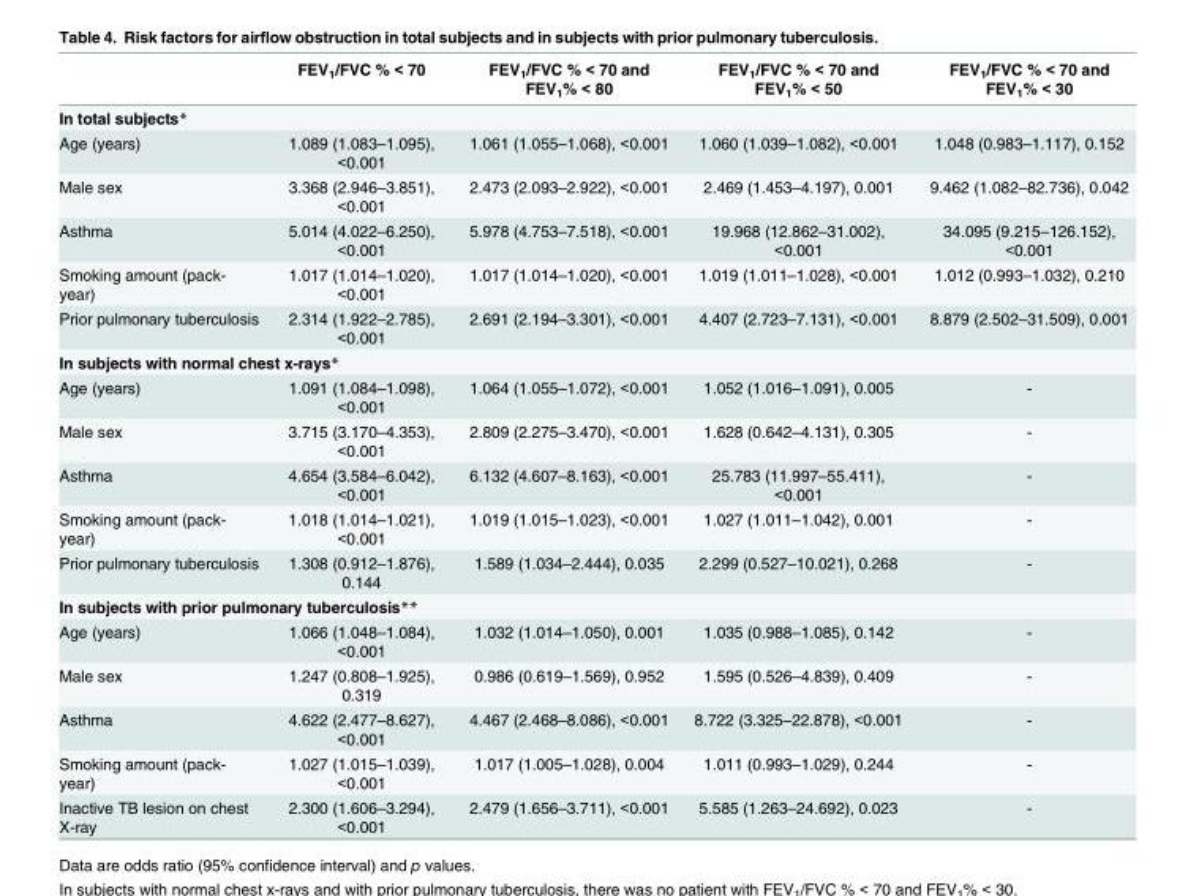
<table><thead><tr><td></td><td>FEV<sub>1</sub>/FVC % &lt; 70</td><td>FEV<sub>1</sub>/FVC % &lt; 70 and FEV<sub>1</sub>% &lt; 80</td><td>FEV<sub>1</sub>/FVC % &lt; 70 and FEV<sub>1</sub>% &lt; 50</td><td>FEV<sub>1</sub>/FVC % &lt; 70 and FEV<sub>1</sub>% &lt; 30</td></tr></thead><tbody><tr><td colspan="5">In total subjects*</td></tr><tr><td>Age (years)</td><td>1.089 (1.083–1.095), &lt;0.001</td><td>1.061 (1.055–1.068), &lt;0.001</td><td>1.060 (1.039–1.082), &lt;0.001</td><td>1.048 (0.983–1.117), 0.152</td></tr><tr><td>Male sex</td><td>3.368 (2.946–3.851), &lt;0.001</td><td>2.473 (2.093–2.922), &lt;0.001</td><td>2.469 (1.453–4.197), 0.001</td><td>9.462 (1.082–82.736), 0.042</td></tr><tr><td>Asthma</td><td>5.014 (4.022–6.250), &lt;0.001</td><td>5.978 (4.753–7.518), &lt;0.001</td><td>19.968 (12.862–31.002), &lt;0.001</td><td>34.095 (9.215–126.152), &lt;0.001</td></tr><tr><td>Smoking amount (pack- year)</td><td>1.017 (1.014–1.020), &lt;0.001</td><td>1.017 (1.014–1.020), &lt;0.001</td><td>1.019 (1.011–1.028), &lt;0.001</td><td>1.012 (0.993–1.032), 0.210</td></tr><tr><td>Prior pulmonary tuberculosis</td><td>2.314 (1.922–2.785), &lt;0.001</td><td>2.691 (2.194–3.301), &lt;0.001</td><td>4.407 (2.723–7.131), &lt;0.001</td><td>8.879 (2.502–31.509), 0.001</td></tr><tr><td colspan="5">In subjects with normal chest x-rays*</td></tr><tr><td>Age (years)</td><td>1.091 (1.084–1.098), &lt;0.001</td><td>1.064 (1.055–1.072), &lt;0.001</td><td>1.052 (1.016–1.091), 0.005</td><td>-</td></tr><tr><td>Male sex</td><td>3.715 (3.170–4.353), &lt;0.001</td><td>2.809 (2.275–3.470), &lt;0.001</td><td>1.628 (0.642–4.131), 0.305</td><td>-</td></tr><tr><td>Asthma</td><td>4.654 (3.584–6.042), &lt;0.001</td><td>6.132 (4.607–8.163), &lt;0.001</td><td>25.783 (11.997–55.411), &lt;0.001</td><td>-</td></tr><tr><td>Smoking amount (pack- year)</td><td>1.018 (1.014–1.021), &lt;0.001</td><td>1.019 (1.015–1.023), &lt;0.001</td><td>1.027 (1.011–1.042), 0.001</td><td>-</td></tr><tr><td>Prior pulmonary tuberculosis</td><td>1.308 (0.912–1.876), 0.144</td><td>1.589 (1.034–2.444), 0.035</td><td>2.299 (0.527–10.021), 0.268</td><td>-</td></tr><tr><td colspan="5">In subjects with prior pulmonary tuberculosis**</td></tr><tr><td>Age (years)</td><td>1.066 (1.048–1.084), &lt;0.001</td><td>1.032 (1.014–1.050), 0.001</td><td>1.035 (0.988–1.085), 0.142</td><td>-</td></tr><tr><td>Male sex</td><td>1.247 (0.808–1.925), 0.319</td><td>0.986 (0.619–1.569), 0.952</td><td>1.595 (0.526–4.839), 0.409</td><td>-</td></tr><tr><td>Asthma</td><td>4.622 (2.477–8.627), &lt;0.001</td><td>4.467 (2.468–8.086), &lt;0.001</td><td>8.722 (3.325–22.878), &lt;0.001</td><td>-</td></tr><tr><td>Smoking amount (pack- year)</td><td>1.027 (1.015–1.039), &lt;0.001</td><td>1.017 (1.005–1.028), 0.004</td><td>1.011 (0.993–1.029), 0.244</td><td>-</td></tr><tr><td>Inactive TB lesion on chest X-ray</td><td>2.300 (1.606–3.294), &lt;0.001</td><td>2.479 (1.656–3.711), &lt;0.001</td><td>5.585 (1.263–24.692), 0.023</td><td>-</td></tr></tbody></table>